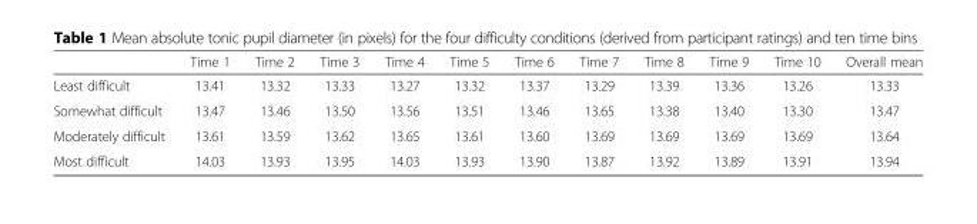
<table><thead><tr><td></td><td>Time 1</td><td>Time 2</td><td>Time 3</td><td>Time 4</td><td>Time 5</td><td>Time 6</td><td>Time 7</td><td>Time 8</td><td>Time 9</td><td>Time 10</td><td>Overall mean</td></tr></thead><tbody><tr><td>Least difficult</td><td>13.41</td><td>13.32</td><td>13.33</td><td>13.27</td><td>13.32</td><td>13.37</td><td>13.29</td><td>13.39</td><td>13.36</td><td>13.26</td><td>13.33</td></tr><tr><td>Somewhat difficult</td><td>13.47</td><td>13.46</td><td>13.50</td><td>13.56</td><td>13.51</td><td>13.46</td><td>13.65</td><td>13.38</td><td>13.40</td><td>13.30</td><td>13.47</td></tr><tr><td>Moderately difficult</td><td>13.61</td><td>13.59</td><td>13.62</td><td>13.65</td><td>13.61</td><td>13.60</td><td>13.69</td><td>13.69</td><td>13.69</td><td>13.69</td><td>13.64</td></tr><tr><td>Most difficult</td><td>14.03</td><td>13.93</td><td>13.95</td><td>14.03</td><td>13.93</td><td>13.90</td><td>13.87</td><td>13.92</td><td>13.89</td><td>13.91</td><td>13.94</td></tr></tbody></table>